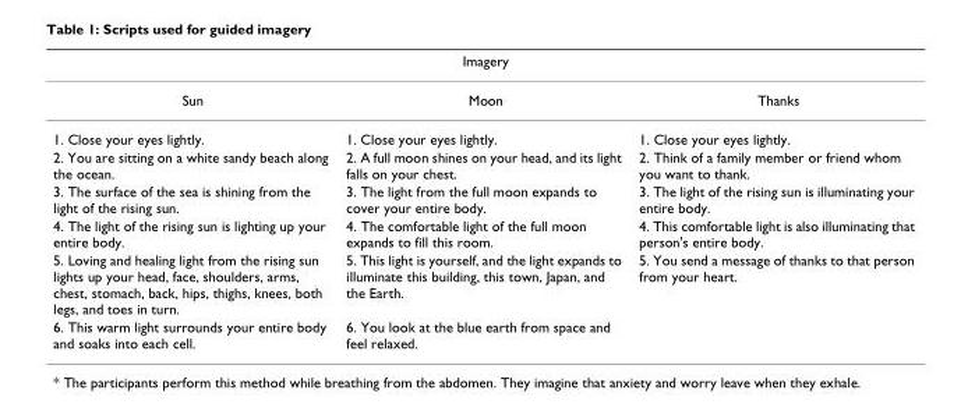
<table><thead><tr><td colspan="3">Imagery</td></tr><tr><td>Sun</td><td>Moon</td><td>Thanks</td></tr></thead><tbody><tr><td>1. Close your eyes lightly.</td><td>1. Close your eyes lightly.</td><td>1. Close your eyes lightly.</td></tr><tr><td>2. You are sitting on a white sandy beach along the ocean.</td><td>2. A full moon shines on your head, and its light falls on your chest.</td><td>2. Think of a family member or friend whom you want to thank.</td></tr><tr><td>3. The surface of the sea is shining from the light of the rising sun.</td><td>3. The light from the full moon expands to cover your entire body.</td><td>3. The light of the rising sun is illuminating your entire body.</td></tr><tr><td>4. The light of the rising sun is lighting up your entire body.</td><td>4. The comfortable light of the full moon expands to fill this room.</td><td>4. This comfortable light is also illuminating that person&#x27;s entire body.</td></tr><tr><td>5. Loving and healing light from the rising sun lights up your head, face, shoulders, arms, chest, stomach, back, hips, thighs, knees, both legs, and toes in turn.</td><td>5. This light is yourself, and the light expands to illuminate this building, this town, Japan, and the Earth.</td><td>5. You send a message of thanks to that person from your heart.</td></tr><tr><td>6. This warm light surrounds your entire body and soaks into each cell.</td><td>6. You look at the blue earth from space and feel relaxed.</td><td></td></tr></tbody></table>